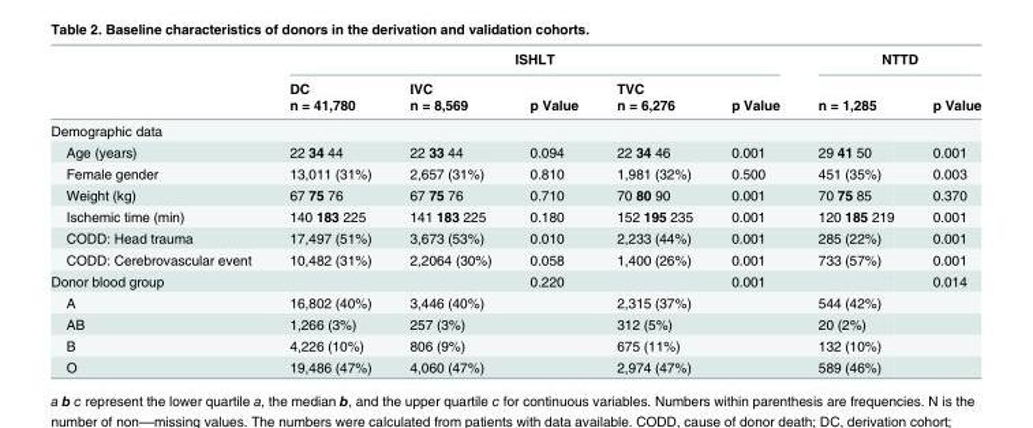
<table><thead><tr><td rowspan="3"></td><td colspan="5">ISHLT</td><td colspan="2">NTTD</td></tr><tr><td rowspan="2">DC n = 41,780</td><td rowspan="2">IVC n = 8,569</td><td rowspan="2">p Value</td><td rowspan="2">TVC n = 6,276</td><td rowspan="2">p Value</td><td rowspan="2">n = 1,285</td><td rowspan="2">p Value</td></tr><tr></tr></thead><tbody><tr><td colspan="8">Demographic data</td></tr><tr><td>Age (years)</td><td>22 34 44</td><td>22 33 44</td><td>0.094</td><td>22 34 46</td><td>0.001</td><td>29 41 50</td><td>0.001</td></tr><tr><td>Female gender</td><td>13,011 (31%)</td><td>2,657 (31%)</td><td>0.810</td><td>1,981 (32%)</td><td>0.500</td><td>451 (35%)</td><td>0.003</td></tr><tr><td>Weight (kg)</td><td>67 75 76</td><td>67 75 76</td><td>0.710</td><td>70 80 90</td><td>0.001</td><td>70 75 85</td><td>0.370</td></tr><tr><td>Ischemic time (min)</td><td>140 183 225</td><td>141 183 225</td><td>0.180</td><td>152 195 235</td><td>0.001</td><td>120 185 219</td><td>0.001</td></tr><tr><td>CODD: Head trauma</td><td>17,497 (51%)</td><td>3,673 (53%)</td><td>0.010</td><td>2,233 (44%)</td><td>0.001</td><td>285 (22%)</td><td>0.001</td></tr><tr><td>CODD: Cerebrovascular event</td><td>10,482 (31%)</td><td>2,2064 (30%)</td><td>0.058</td><td>1,400 (26%)</td><td>0.001</td><td>733 (57%)</td><td>0.001</td></tr><tr><td>Donor blood group</td><td></td><td></td><td>0.220</td><td></td><td>0.001</td><td></td><td>0.014</td></tr><tr><td>A</td><td>16,802 (40%)</td><td>3,446 (40%)</td><td></td><td>2,315 (37%)</td><td></td><td>544 (42%)</td><td></td></tr><tr><td>AB</td><td>1,266 (3%)</td><td>257 (3%)</td><td></td><td>312 (5%)</td><td></td><td>20 (2%)</td><td></td></tr><tr><td>B</td><td>4,226 (10%)</td><td>806 (9%)</td><td></td><td>675 (11%)</td><td></td><td>132 (10%)</td><td></td></tr><tr><td>O</td><td>19,486 (47%)</td><td>4,060 (47%)</td><td></td><td>2,974 (47%)</td><td></td><td>589 (46%)</td><td></td></tr></tbody></table>